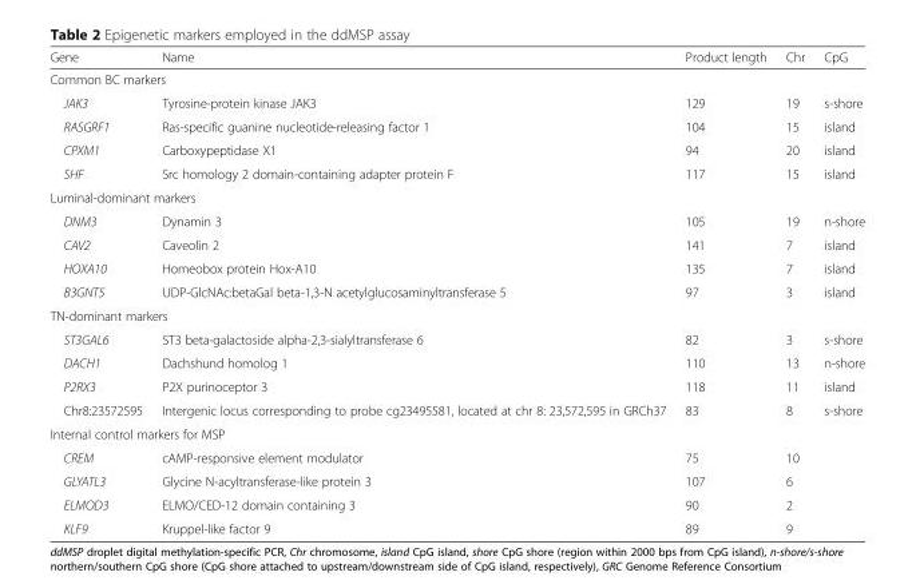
<table><thead><tr><td>Gene</td><td>Name</td><td>Product length</td><td>Chr</td><td>CpG</td></tr></thead><tbody><tr><td colspan="5">Common BC markers</td></tr><tr><td>JAK3</td><td>Tyrosine-protein kinase JAK3</td><td>129</td><td>19</td><td>s-shore</td></tr><tr><td>RASGRF1</td><td>Ras-specific guanine nucleotide-releasing factor 1</td><td>104</td><td>15</td><td>island</td></tr><tr><td>CPXM1</td><td>Carboxypeptidase X1</td><td>94</td><td>20</td><td>island</td></tr><tr><td>SHF</td><td>Src homology 2 domain-containing adapter protein F</td><td>117</td><td>15</td><td>island</td></tr><tr><td colspan="5">Luminal-dominant markers</td></tr><tr><td>DNM3</td><td>Dynamin 3</td><td>105</td><td>19</td><td>n-shore</td></tr><tr><td>CAV2</td><td>Caveolin 2</td><td>141</td><td>7</td><td>island</td></tr><tr><td>HOXA10</td><td>Homeobox protein Hox-A10</td><td>135</td><td>7</td><td>island</td></tr><tr><td>B3GNT5</td><td>UDP-GlcNAc:betaGal beta-1,3-N acetylglucosaminyltransferase 5</td><td>97</td><td>3</td><td>island</td></tr><tr><td colspan="5">TN-dominant markers</td></tr><tr><td>ST3GAL6</td><td>ST3 beta-galactoside alpha-2,3-sialyltransferase 6</td><td>82</td><td>3</td><td>s-shore</td></tr><tr><td>DACH1</td><td>Dachshund homolog 1</td><td>110</td><td>13</td><td>n-shore</td></tr><tr><td>P2RX3</td><td>P2X purinoceptor 3</td><td>118</td><td>11</td><td>island</td></tr><tr><td>Chr8:23572595</td><td>Intergenic locus corresponding to probe cg23495581, located at chr 8: 23,572,595 in GRCh37</td><td>83</td><td>8</td><td>s-shore</td></tr><tr><td colspan="5">Internal control markers for MSP</td></tr><tr><td>CREM</td><td>cAMP-responsive element modulator</td><td>75</td><td>10</td><td></td></tr><tr><td>GLYATL3</td><td>Glycine N-acyltransferase-like protein 3</td><td>107</td><td>6</td><td></td></tr><tr><td>ELMOD3</td><td>ELMO/CED-12 domain containing 3</td><td>90</td><td>2</td><td></td></tr><tr><td>KLF9</td><td>Kruppel-like factor 9</td><td>89</td><td>9</td><td></td></tr></tbody></table>